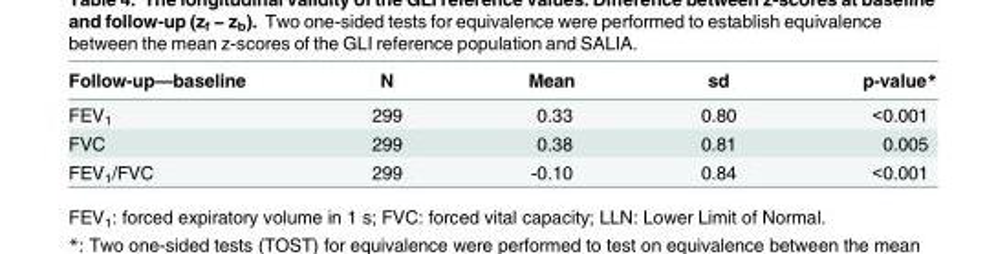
<table><thead><tr><td>Follow-up—baseline</td><td>N</td><td>Mean</td><td>sd</td><td>p-value*</td></tr></thead><tbody><tr><td>FEV<sub>1</sub></td><td>299</td><td>0.33</td><td>0.80</td><td>&lt;0.001</td></tr><tr><td>FVC</td><td>299</td><td>0.38</td><td>0.81</td><td>0.005</td></tr><tr><td>FEV<sub>1</sub>/FVC</td><td>299</td><td>-0.10</td><td>0.84</td><td>&lt;0.001</td></tr></tbody></table>